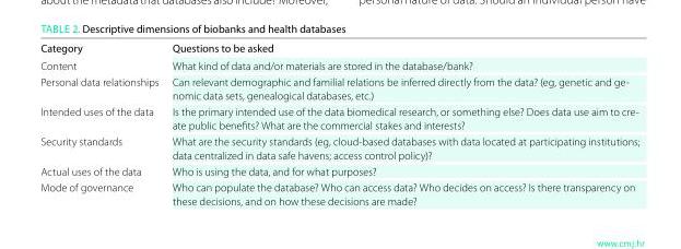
<table><thead><tr><td>Category</td><td>Questions to be asked</td></tr></thead><tbody><tr><td>Content</td><td>What kind of data and/or materials are stored in the database/bank?</td></tr><tr><td>Personal data relationships</td><td>Can relevant demographic and familial relations be inferred directly from the data? (eg, genetic and ge- nomic data sets, genealogical databases, etc.)</td></tr><tr><td>Intended uses of the data</td><td>Is the primary intended use of the data biomedical research, or something else? Does data use aim to cre- ate public benefits? What are the commercial stakes and interests?</td></tr><tr><td>Security standards</td><td>What are the security standards (eg, cloud-based databases with data located at participating institutions; data centralized in data safe havens; access control policy)?</td></tr><tr><td>Actual uses of the data</td><td>Who is using the data, and for what purposes?</td></tr><tr><td>Mode of governance</td><td>Who can populate the database? Who can access data? Who decides on access? Is there transparency on these decisions, and on how these decisions are made?</td></tr></tbody></table>